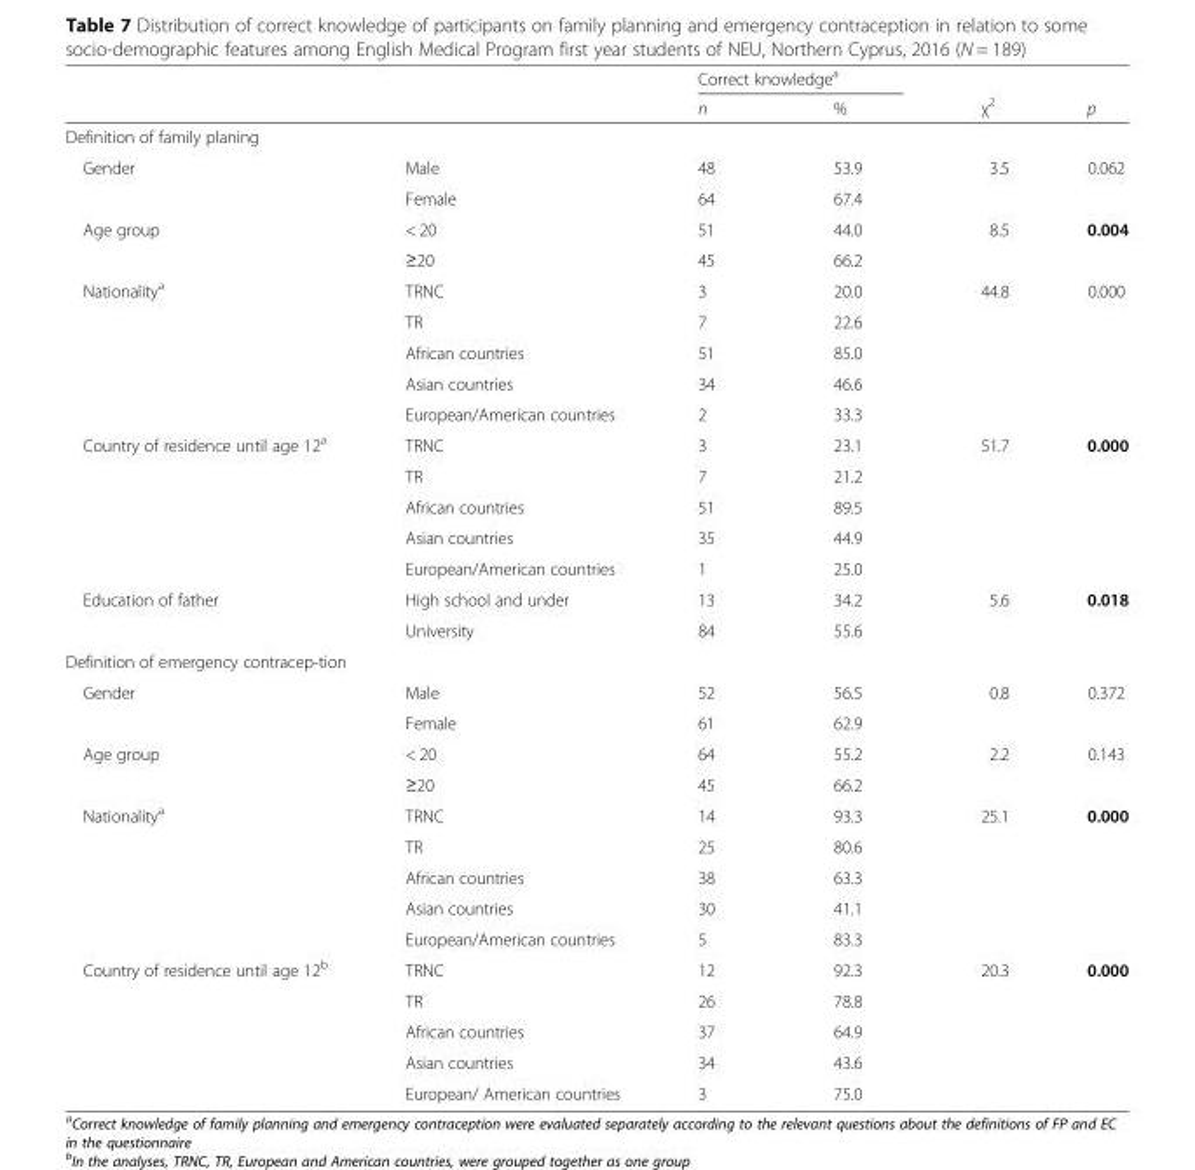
<table><thead><tr><td rowspan="2"></td><td rowspan="2"></td><td colspan="2">Correct knowledge<sup>a</sup></td><td rowspan="2">χ<sup>2</sup></td><td rowspan="2">p</td></tr><tr><td>n</td><td>%</td></tr></thead><tbody><tr><td colspan="6">Definition of family planing</td></tr><tr><td rowspan="2">Gender</td><td>Male</td><td>48</td><td>53.9</td><td>3.5</td><td>0.062</td></tr><tr><td>Female</td><td>64</td><td>67.4</td><td></td><td></td></tr><tr><td rowspan="2">Age group</td><td>&lt; 20</td><td>51</td><td>44.0</td><td>8.5</td><td>0.004</td></tr><tr><td>≥20</td><td>45</td><td>66.2</td><td></td><td></td></tr><tr><td rowspan="5">Nationality<sup>a</sup></td><td>TRNC</td><td>3</td><td>20.0</td><td>44.8</td><td>0.000</td></tr><tr><td>TR</td><td>7</td><td>22.6</td><td></td><td></td></tr><tr><td>African countries</td><td>51</td><td>85.0</td><td></td><td></td></tr><tr><td>Asian countries</td><td>34</td><td>46.6</td><td></td><td></td></tr><tr><td>European/American countries</td><td>2</td><td>33.3</td><td></td><td></td></tr><tr><td rowspan="5">Country of residence until age 12<sup>a</sup></td><td>TRNC</td><td>3</td><td>23.1</td><td>51.7</td><td>0.000</td></tr><tr><td>TR</td><td>7</td><td>21.2</td><td></td><td></td></tr><tr><td>African countries</td><td>51</td><td>89.5</td><td></td><td></td></tr><tr><td>Asian countries</td><td>35</td><td>44.9</td><td></td><td></td></tr><tr><td>European/American countries</td><td>1</td><td>25.0</td><td></td><td></td></tr><tr><td rowspan="2">Education of father</td><td>High school and under</td><td>13</td><td>34.2</td><td>5.6</td><td>0.018</td></tr><tr><td>University</td><td>84</td><td>55.6</td><td></td><td></td></tr><tr><td colspan="6">Definition of emergency contracep-tion</td></tr><tr><td rowspan="2">Gender</td><td>Male</td><td>52</td><td>56.5</td><td>0.8</td><td>0.372</td></tr><tr><td>Female</td><td>61</td><td>62.9</td><td></td><td></td></tr><tr><td rowspan="2">Age group</td><td>&lt; 20</td><td>64</td><td>55.2</td><td>2.2</td><td>0.143</td></tr><tr><td>≥20</td><td>45</td><td>66.2</td><td></td><td></td></tr><tr><td rowspan="5">Nationality<sup>a</sup></td><td>TRNC</td><td>14</td><td>93.3</td><td>25.1</td><td>0.000</td></tr><tr><td>TR</td><td>25</td><td>80.6</td><td></td><td></td></tr><tr><td>African countries</td><td>38</td><td>63.3</td><td></td><td></td></tr><tr><td>Asian countries</td><td>30</td><td>41.1</td><td></td><td></td></tr><tr><td>European/American countries</td><td>5</td><td>83.3</td><td></td><td></td></tr><tr><td rowspan="5">Country of residence until age 12<sup>b</sup></td><td>TRNC</td><td>12</td><td>92.3</td><td>20.3</td><td>0.000</td></tr><tr><td>TR</td><td>26</td><td>78.8</td><td></td><td></td></tr><tr><td>African countries</td><td>37</td><td>64.9</td><td></td><td></td></tr><tr><td>Asian countries</td><td>34</td><td>43.6</td><td></td><td></td></tr><tr><td>European/ American countries</td><td>3</td><td>75.0</td><td></td><td></td></tr></tbody></table>